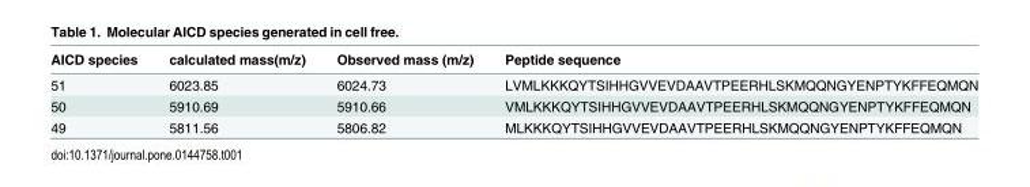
<table><thead><tr><td>AICD species</td><td>calculated mass(m/z)</td><td>Observed mass (m/z)</td><td>Peptide sequence</td></tr></thead><tbody><tr><td>51</td><td>6023.85</td><td>6024.73</td><td>LVMLKKKQYTSIHHGVVEVDAAVTPEERHLSKMQQNGYENPTYKFFEQMQN</td></tr><tr><td>50</td><td>5910.69</td><td>5910.66</td><td>VMLKKKQYTSIHHGVVEVDAAVTPEERHLSKMQQNGYENPTYKFFEQMQN</td></tr><tr><td>49</td><td>5811.56</td><td>5806.82</td><td>MLKKKQYTSIHHGVVEVDAAVTPEERHLSKMQQNGYENPTYKFFEQMQN</td></tr></tbody></table>